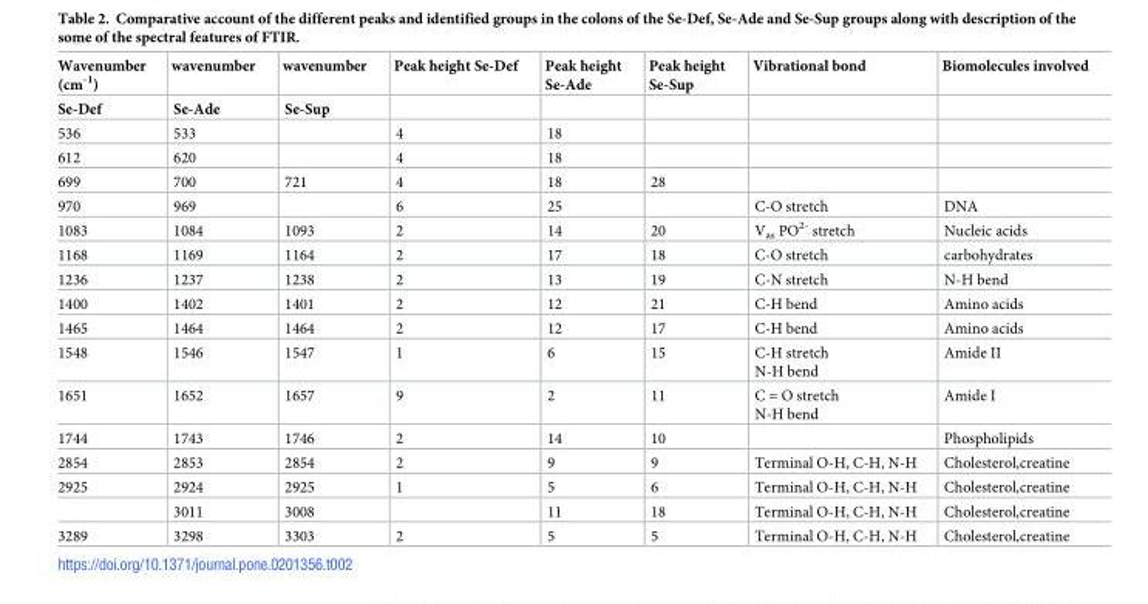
<table><thead><tr><td>Wavenumber (cm<sup>-1</sup>)</td><td>wavenumber</td><td>wavenumber</td><td>Peak height Se-Def</td><td>Peak height Se-Ade</td><td>Peak height Se-Sup</td><td>Vibrational bond</td><td>Biomolecules involved</td></tr></thead><tbody><tr><td>Se-Def</td><td>Se-Ade</td><td>Se-Sup</td><td></td><td></td><td></td><td></td><td></td></tr><tr><td>536</td><td>533</td><td></td><td>4</td><td>18</td><td></td><td></td><td></td></tr><tr><td>612</td><td>620</td><td></td><td>4</td><td>18</td><td></td><td></td><td></td></tr><tr><td>699</td><td>700</td><td>721</td><td>4</td><td>18</td><td>28</td><td></td><td></td></tr><tr><td>970</td><td>969</td><td></td><td>6</td><td>25</td><td></td><td>C-O stretch</td><td>DNA</td></tr><tr><td>1083</td><td>1084</td><td>1093</td><td>2</td><td>14</td><td>20</td><td>V<sub>as</sub> PO<sup>2-</sup> stretch</td><td>Nucleic acids</td></tr><tr><td>1168</td><td>1169</td><td>1164</td><td>2</td><td>17</td><td>18</td><td>C-O stretch</td><td>carbohydrates</td></tr><tr><td>1236</td><td>1237</td><td>1238</td><td>2</td><td>13</td><td>19</td><td>C-N stretch</td><td>N-H bend</td></tr><tr><td>1400</td><td>1402</td><td>1401</td><td>2</td><td>12</td><td>21</td><td>C-H bend</td><td>Amino acids</td></tr><tr><td>1465</td><td>1464</td><td>1464</td><td>2</td><td>12</td><td>17</td><td>C-H bend</td><td>Amino acids</td></tr><tr><td>1548</td><td>1546</td><td>1547</td><td>1</td><td>6</td><td>15</td><td>C-H stretch N-H bend</td><td>Amide II</td></tr><tr><td>1651</td><td>1652</td><td>1657</td><td>9</td><td>2</td><td>11</td><td>C = O stretch N-H bend</td><td>Amide I</td></tr><tr><td>1744</td><td>1743</td><td>1746</td><td>2</td><td>14</td><td>10</td><td></td><td>Phospholipids</td></tr><tr><td>2854</td><td>2853</td><td>2854</td><td>2</td><td>9</td><td>9</td><td>Terminal O-H, C-H, N-H</td><td>Cholesterol,creatine</td></tr><tr><td rowspan="2">2925</td><td>2924</td><td>2925</td><td>1</td><td>5</td><td>6</td><td>Terminal O-H, C-H, N-H</td><td>Cholesterol,creatine</td></tr><tr><td>3011</td><td>3008</td><td></td><td>11</td><td>18</td><td>Terminal O-H, C-H, N-H</td><td>Cholesterol,creatine</td></tr><tr><td>3289</td><td>3298</td><td>3303</td><td>2</td><td>5</td><td>5</td><td>Terminal O-H, C-H, N-H</td><td>Cholesterol,creatine</td></tr></tbody></table>